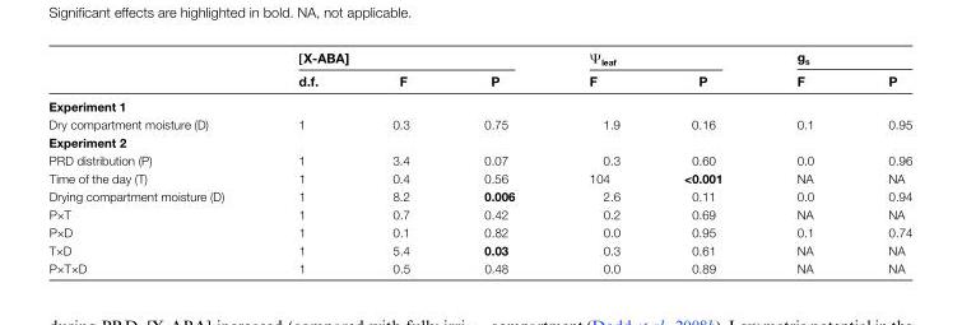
<table><thead><tr><td rowspan="2"></td><td colspan="3">[X-ABA]</td><td colspan="2">Ψ<sub>leaf</sub></td><td colspan="2">g<sub>s</sub></td></tr><tr><td>d.f.</td><td>F</td><td>P</td><td>F</td><td>P</td><td>F</td><td>P</td></tr></thead><tbody><tr><td colspan="8">Experiment 1</td></tr><tr><td>Dry compartment moisture (D)</td><td>1</td><td>0.3</td><td>0.75</td><td>1.9</td><td>0.16</td><td>0.1</td><td>0.95</td></tr><tr><td colspan="8">Experiment 2</td></tr><tr><td>PRD distribution (P)</td><td>1</td><td>3.4</td><td>0.07</td><td>0.3</td><td>0.60</td><td>0.0</td><td>0.96</td></tr><tr><td>Time of the day (T)</td><td>1</td><td>0.4</td><td>0.56</td><td>104</td><td>&lt;0.001</td><td>NA</td><td>NA</td></tr><tr><td>Drying compartment moisture (D)</td><td>1</td><td>8.2</td><td>0.006</td><td>2.6</td><td>0.11</td><td>0.0</td><td>0.94</td></tr><tr><td>P×T</td><td>1</td><td>0.7</td><td>0.42</td><td>0.2</td><td>0.69</td><td>NA</td><td>NA</td></tr><tr><td>P×D</td><td>1</td><td>0.1</td><td>0.82</td><td>0.0</td><td>0.95</td><td>0.1</td><td>0.74</td></tr><tr><td>T×D</td><td>1</td><td>5.4</td><td>0.03</td><td>0.3</td><td>0.61</td><td>NA</td><td>NA</td></tr><tr><td>P×T×D</td><td>1</td><td>0.5</td><td>0.48</td><td>0.0</td><td>0.89</td><td>NA</td><td>NA</td></tr></tbody></table>